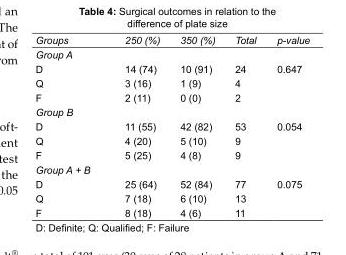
<table><tbody><tr><td>Groups</td><td>250 (%)</td><td>350 (%)</td><td>Total</td><td>p-value</td></tr><tr><td colspan="5">Group A</td></tr><tr><td>D</td><td>14 (74)</td><td>10 (91)</td><td>24</td><td>0.647</td></tr><tr><td>Q</td><td>3 (16)</td><td>1 (9)</td><td>4</td><td></td></tr><tr><td>F</td><td>2 (11)</td><td>0 (0)</td><td>2</td><td></td></tr><tr><td colspan="5">Group B</td></tr><tr><td>D</td><td>11 (55)</td><td>42 (82)</td><td>53</td><td>0.054</td></tr><tr><td>Q</td><td>4 (20)</td><td>5 (10)</td><td>9</td><td></td></tr><tr><td>F</td><td>5 (25)</td><td>4 (8)</td><td>9</td><td></td></tr><tr><td colspan="5">Group A + B</td></tr><tr><td>D</td><td>25 (64)</td><td>52 (84)</td><td>77</td><td>0.075</td></tr><tr><td>Q</td><td>7 (18)</td><td>6 (10)</td><td>13</td><td></td></tr><tr><td>F</td><td>8 (18)</td><td>4 (6)</td><td>11</td><td></td></tr></tbody></table>